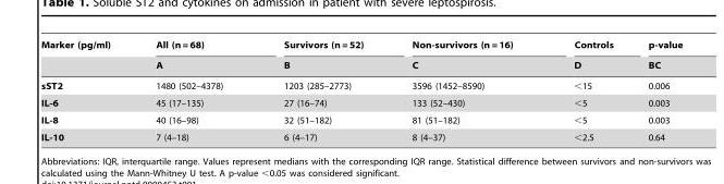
<table><thead><tr><td rowspan="2">Marker (pg/ml)</td><td rowspan="2">All (n = 68) A</td><td rowspan="2">Survivors (n = 52) B</td><td rowspan="2">Non-survivors (n = 16) C</td><td rowspan="2">Controls D</td><td rowspan="2">p-value BC</td></tr><tr></tr></thead><tbody><tr><td>sST2</td><td>1480 (502–4378)</td><td>1203 (285–2773)</td><td>3596 (1452–8590)</td><td>&lt;15</td><td>0.006</td></tr><tr><td>IL-6</td><td>45 (17–135)</td><td>27 (16–74)</td><td>133 (52–430)</td><td>&lt;5</td><td>0.003</td></tr><tr><td>IL-8</td><td>40 (16–98)</td><td>32 (51–182)</td><td>81 (51–182)</td><td>&lt;5</td><td>0.003</td></tr><tr><td>IL-10</td><td>7 (4–18)</td><td>6 (4–17)</td><td>8 (4–37)</td><td>&lt;2.5</td><td>0.64</td></tr></tbody></table>